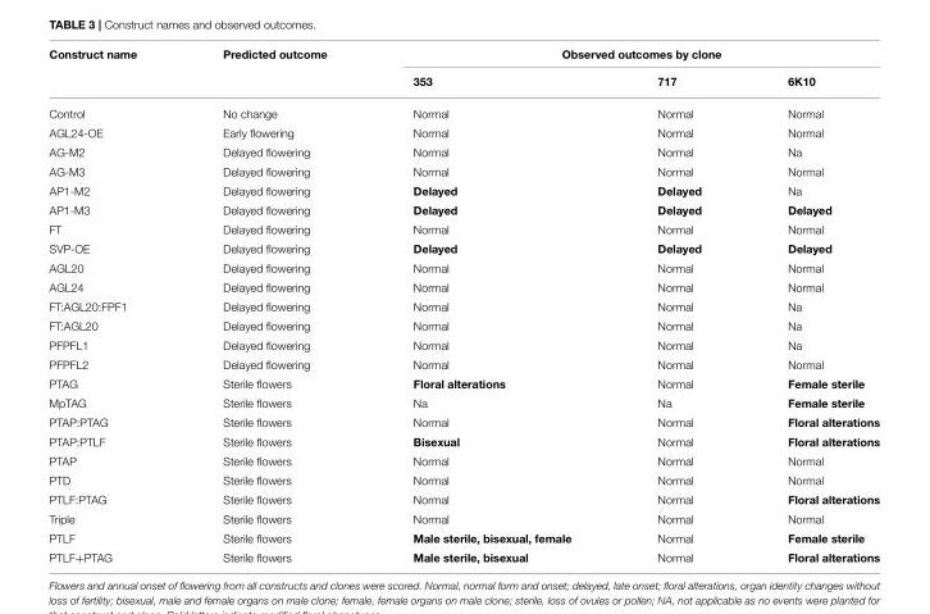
<table><thead><tr><td rowspan="2">Construct name</td><td rowspan="2">Predicted outcome</td><td colspan="3">Observed outcomes by clone</td></tr><tr><td>353</td><td>717</td><td>6K10</td></tr></thead><tbody><tr><td>Control</td><td>No change</td><td>Normal</td><td>Normal</td><td>Normal</td></tr><tr><td>AGL24-OE</td><td>Early flowering</td><td>Normal</td><td>Normal</td><td>Normal</td></tr><tr><td>AG-M2</td><td>Delayed flowering</td><td>Normal</td><td>Normal</td><td>Na</td></tr><tr><td>AG-M3</td><td>Delayed flowering</td><td>Normal</td><td>Normal</td><td>Normal</td></tr><tr><td>AP1-M2</td><td>Delayed flowering</td><td>Delayed</td><td>Delayed</td><td>Na</td></tr><tr><td>AP1-M3</td><td>Delayed flowering</td><td>Delayed</td><td>Delayed</td><td>Delayed</td></tr><tr><td>FT</td><td>Delayed flowering</td><td>Normal</td><td>Normal</td><td>Normal</td></tr><tr><td>SVP-OE</td><td>Delayed flowering</td><td>Delayed</td><td>Delayed</td><td>Delayed</td></tr><tr><td>AGL20</td><td>Delayed flowering</td><td>Normal</td><td>Normal</td><td>Normal</td></tr><tr><td>AGL24</td><td>Delayed flowering</td><td>Normal</td><td>Normal</td><td>Normal</td></tr><tr><td>FT:AGL20:FPF1</td><td>Delayed flowering</td><td>Normal</td><td>Normal</td><td>Na</td></tr><tr><td>FT:AGL20</td><td>Delayed flowering</td><td>Normal</td><td>Normal</td><td>Na</td></tr><tr><td>PFPFL1</td><td>Delayed flowering</td><td>Normal</td><td>Normal</td><td>Na</td></tr><tr><td>PFPFL2</td><td>Delayed flowering</td><td>Normal</td><td>Normal</td><td>Normal</td></tr><tr><td>PTAG</td><td>Sterile flowers</td><td>Floral alterations</td><td>Normal</td><td>Female sterile</td></tr><tr><td>MpTAG</td><td>Sterile flowers</td><td>Na</td><td>Na</td><td>Female sterile</td></tr><tr><td>PTAP:PTAG</td><td>Sterile flowers</td><td>Normal</td><td>Normal</td><td>Floral alterations</td></tr><tr><td>PTAP:PTLF</td><td>Sterile flowers</td><td>Bisexual</td><td>Normal</td><td>Floral alterations</td></tr><tr><td>PTAP</td><td>Sterile flowers</td><td>Normal</td><td>Normal</td><td>Normal</td></tr><tr><td>PTD</td><td>Sterile flowers</td><td>Normal</td><td>Normal</td><td>Normal</td></tr><tr><td>PTLF:PTAG</td><td>Sterile flowers</td><td>Normal</td><td>Normal</td><td>Floral alterations</td></tr><tr><td>Triple</td><td>Sterile flowers</td><td>Normal</td><td>Normal</td><td>Normal</td></tr><tr><td>PTLF</td><td>Sterile flowers</td><td>Male sterile, bisexual, female</td><td>Normal</td><td>Female sterile</td></tr><tr><td>PTLF+PTAG</td><td>Sterile flowers</td><td>Male sterile, bisexual</td><td>Normal</td><td>Floral alterations</td></tr></tbody></table>